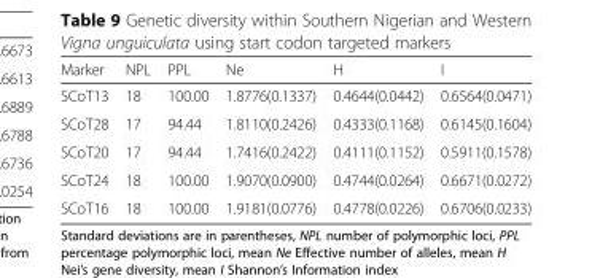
<table><thead><tr><td>Marker</td><td>NPL</td><td>PPL</td><td>Ne</td><td>H</td><td>I</td></tr></thead><tbody><tr><td>SCoT13</td><td>18</td><td>100.00</td><td>1.8776(0.1337)</td><td>0.4644(0.0442)</td><td>0.6564(0.0471)</td></tr><tr><td>SCoT28</td><td>17</td><td>94.44</td><td>1.8110(0.2426)</td><td>0.4333(0.1168)</td><td>0.6145(0.1604)</td></tr><tr><td>SCoT20</td><td>17</td><td>94.44</td><td>1.7416(0.2422)</td><td>0.4111(0.1152)</td><td>0.5911(0.1578)</td></tr><tr><td>SCoT24</td><td>18</td><td>100.00</td><td>1.9070(0.0900)</td><td>0.4744(0.0264)</td><td>0.6671(0.0272)</td></tr><tr><td>SCoT16</td><td>18</td><td>100.00</td><td>1.9181(0.0776)</td><td>0.4778(0.0226)</td><td>0.6706(0.0233)</td></tr></tbody></table>